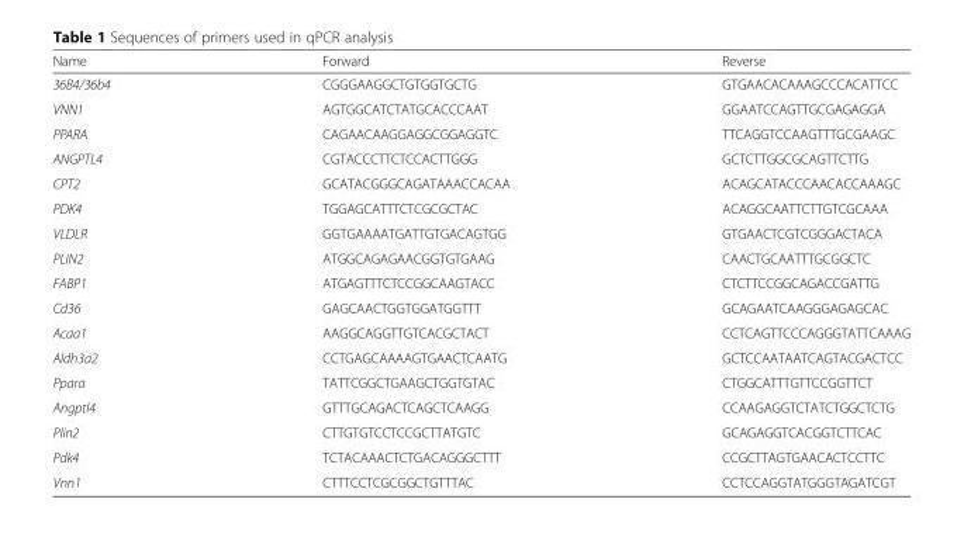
<table><thead><tr><td>Name</td><td>Forward</td><td>Reverse</td></tr></thead><tbody><tr><td>36B4/36b4</td><td>CGGGAAGGCTGTGGTGCTG</td><td>GTGAACACAAAGCCCACATTCC</td></tr><tr><td>VNN1</td><td>AGTGGCATCTATGCACCCAAT</td><td>GGAATCCAGTTGCGAGAGGA</td></tr><tr><td>PPARA</td><td>CAGAACAAGGAGGCGGAGGTC</td><td>TTCAGGTCCAAGTTTGCGAAGC</td></tr><tr><td>ANGPTL4</td><td>CGTACCCTTCTCCACTTGGG</td><td>GCTCTTGGCGCAGTTCTTG</td></tr><tr><td>CPT2</td><td>GCATACGGGCAGATAAACCACAA</td><td>ACAGCATACCCAACACCAAAGC</td></tr><tr><td>PDK4</td><td>TGGAGCATTTCTCGCGCTAC</td><td>ACAGGCAATTCTTGTCGCAAA</td></tr><tr><td>VLDLR</td><td>GGTGAAAATGATTGTGACAGTGG</td><td>GTGAACTCGTCGGGACTACA</td></tr><tr><td>PLIN2</td><td>ATGGCAGAGAACGGTGTGAAG</td><td>CAACTGCAATTTGCGGCTC</td></tr><tr><td>FABP1</td><td>ATGAGTTTCTCCGGCAAGTACC</td><td>CTCTTCCGGCAGACCGATTG</td></tr><tr><td>Cd36</td><td>GAGCAACTGGTGGATGGTTT</td><td>GCAGAATCAAGGGAGAGCAC</td></tr><tr><td>Acaa1</td><td>AAGGCAGGTTGTCACGCTACT</td><td>CCTCAGTTCCCAGGGTATTCAAAG</td></tr><tr><td>Aldh3a2</td><td>CCTGAGCAAAAGTGAACTCAATG</td><td>GCTCCAATAATCAGTACGACTCC</td></tr><tr><td>Ppara</td><td>TATTCGGCTGAAGCTGGTGTAC</td><td>CTGGCATTTGTTCCGGTTCT</td></tr><tr><td>Angptl4</td><td>GTTTGCAGACTCAGCTCAAGG</td><td>CCAAGAGGTCTATCTGGCTCTG</td></tr><tr><td>Plin2</td><td>CTTGTGTCCTCCGCTTATGTC</td><td>GCAGAGGTCACGGTCTTCAC</td></tr><tr><td>Pdk4</td><td>TCTACAAACTCTGACAGGGCTTT</td><td>CCGCTTAGTGAACACTCCTTC</td></tr><tr><td>Vnn1</td><td>CTTTCCTCGCGGCTGTTTAC</td><td>CCTCCAGGTATGGGTAGATCGT</td></tr></tbody></table>